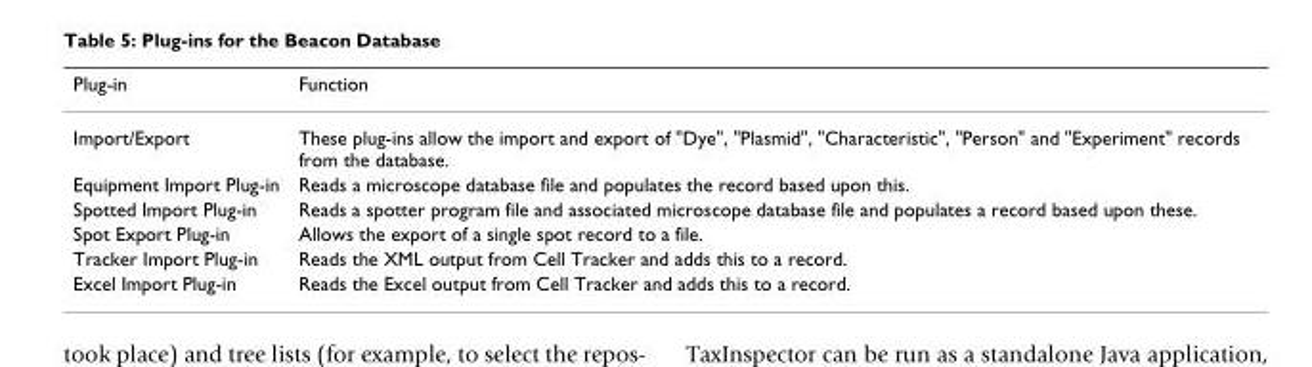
<table><thead><tr><td>Plug-in</td><td>Function</td></tr></thead><tbody><tr><td>Import/Export</td><td>These plug-ins allow the import and export of &quot;Dye&quot;, &quot;Plasmid&quot;, &quot;Characteristic&quot;, &quot;Person&quot; and &quot;Experiment&quot; records from the database.</td></tr><tr><td>Equipment Import Plug-in</td><td>Reads a microscope database file and populates the record based upon this.</td></tr><tr><td>Spotted Import Plug-in</td><td>Reads a spotter program file and associated microscope database file and populates a record based upon these.</td></tr><tr><td>Spot Export Plug-in</td><td>Allows the export of a single spot record to a file.</td></tr><tr><td>Tracker Import Plug-in</td><td>Reads the XML output from Cell Tracker and adds this to a record.</td></tr><tr><td>Excel Import Plug-in</td><td>Reads the Excel output from Cell Tracker and adds this to a record.</td></tr></tbody></table>